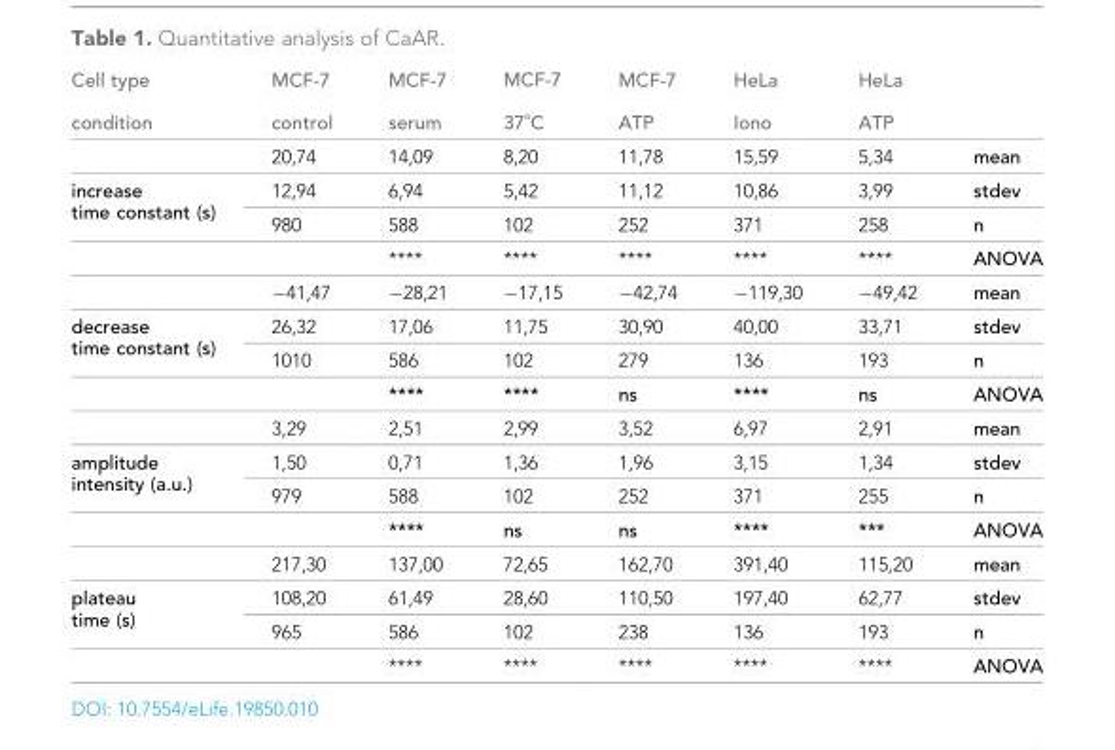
<table><thead><tr><td>Cell type condition</td><td>MCF-7 control</td><td>MCF-7 serum</td><td>MCF-7 37˚C</td><td>MCF-7 ATP</td><td>HeLa Iono</td><td>HeLa ATP</td><td></td></tr></thead><tbody><tr><td></td><td>20,74</td><td>14,09</td><td>8,20</td><td>11,78</td><td>15,59</td><td>5,34</td><td>mean</td></tr><tr><td rowspan="4">increase time constant (s)</td><td>12,94</td><td>6,94</td><td>5,42</td><td>11,12</td><td>10,86</td><td>3,99</td><td>stdev</td></tr><tr><td>980</td><td>588</td><td>102</td><td>252</td><td>371</td><td>258</td><td>n</td></tr><tr><td></td><td>****</td><td>****</td><td>****</td><td>****</td><td>****</td><td>ANOVA</td></tr><tr><td>−41,47</td><td>−28,21</td><td>−17,15</td><td>−42,74</td><td>−119,30</td><td>−49,42</td><td>mean</td></tr><tr><td rowspan="4">decrease time constant (s)</td><td>26,32</td><td>17,06</td><td>11,75</td><td>30,90</td><td>40,00</td><td>33,71</td><td>stdev</td></tr><tr><td>1010</td><td>586</td><td>102</td><td>279</td><td>136</td><td>193</td><td>n</td></tr><tr><td></td><td>****</td><td>****</td><td>ns</td><td>****</td><td>ns</td><td>ANOVA</td></tr><tr><td>3,29</td><td>2,51</td><td>2,99</td><td>3,52</td><td>6,97</td><td>2,91</td><td>mean</td></tr><tr><td rowspan="4">amplitude intensity (a.u.)</td><td>1,50</td><td>0,71</td><td>1,36</td><td>1,96</td><td>3,15</td><td>1,34</td><td>stdev</td></tr><tr><td>979</td><td>588</td><td>102</td><td>252</td><td>371</td><td>255</td><td>n</td></tr><tr><td></td><td>****</td><td>ns</td><td>ns</td><td>****</td><td>***</td><td>ANOVA</td></tr><tr><td>217,30</td><td>137,00</td><td>72,65</td><td>162,70</td><td>391,40</td><td>115,20</td><td>mean</td></tr><tr><td rowspan="3">plateau time (s)</td><td>108,20</td><td>61,49</td><td>28,60</td><td>110,50</td><td>197,40</td><td>62,77</td><td>stdev</td></tr><tr><td>965</td><td>586</td><td>102</td><td>238</td><td>136</td><td>193</td><td>n</td></tr><tr><td></td><td>****</td><td>****</td><td>****</td><td>****</td><td>****</td><td>ANOVA</td></tr></tbody></table>